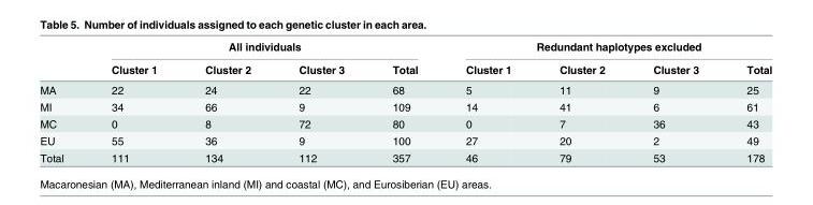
<table><thead><tr><td rowspan="2"></td><td colspan="4">All individuals</td><td colspan="4">Redundant haplotypes excluded</td></tr><tr><td>Cluster 1</td><td>Cluster 2</td><td>Cluster 3</td><td>Total</td><td>Cluster 1</td><td>Cluster 2</td><td>Cluster 3</td><td>Total</td></tr></thead><tbody><tr><td>MA</td><td>22</td><td>24</td><td>22</td><td>68</td><td>5</td><td>11</td><td>9</td><td>25</td></tr><tr><td>MI</td><td>34</td><td>66</td><td>9</td><td>109</td><td>14</td><td>41</td><td>6</td><td>61</td></tr><tr><td>MC</td><td>0</td><td>8</td><td>72</td><td>80</td><td>0</td><td>7</td><td>36</td><td>43</td></tr><tr><td>EU</td><td>55</td><td>36</td><td>9</td><td>100</td><td>27</td><td>20</td><td>2</td><td>49</td></tr><tr><td>Total</td><td>111</td><td>134</td><td>112</td><td>357</td><td>46</td><td>79</td><td>53</td><td>178</td></tr></tbody></table>